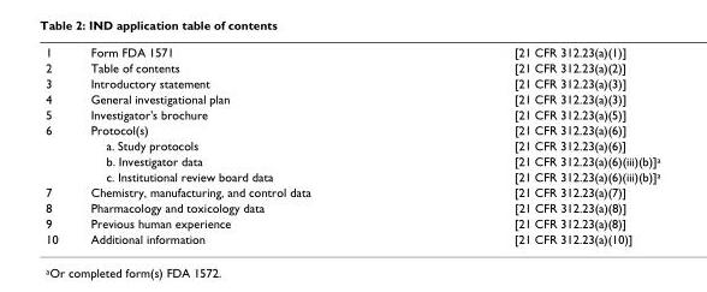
<table><tbody><tr><td>1</td><td>Form FDA 1571</td><td>[21 CFR 312.23(a)(1)]</td></tr><tr><td>2</td><td>Table of contents</td><td>[21 CFR 312.23(a)(2)]</td></tr><tr><td>3</td><td>Introductory statement</td><td>[21 CFR 312.23(a)(3)]</td></tr><tr><td>4</td><td>General investigational plan</td><td>[21 CFR 312.23(a)(3)]</td></tr><tr><td>5</td><td>Investigator&#x27;s brochure</td><td>[21 CFR 312.23(a)(5)]</td></tr><tr><td rowspan="4">6</td><td>Protocol(s)</td><td>[21 CFR 312.23(a)(6)]</td></tr><tr><td>a. Study protocols</td><td>[21 CFR 312.23(a)(6)]</td></tr><tr><td>b. Investigator data</td><td>[21 CFR 312.23(a)(6)(iii)(b)]<sup>a</sup></td></tr><tr><td>c. Institutional review board data</td><td>[21 CFR 312.23(a)(6)(iii)(b)]<sup>a</sup></td></tr><tr><td>7</td><td>Chemistry, manufacturing, and control data</td><td>[21 CFR 312.23(a)(7)]</td></tr><tr><td>8</td><td>Pharmacology and toxicology data</td><td>[21 CFR 312.23(a)(8)]</td></tr><tr><td>9</td><td>Previous human experience</td><td>[21 CFR 312.23(a)(8)]</td></tr><tr><td>10</td><td>Additional information</td><td>[21 CFR 312.23(a)(10)]</td></tr></tbody></table>